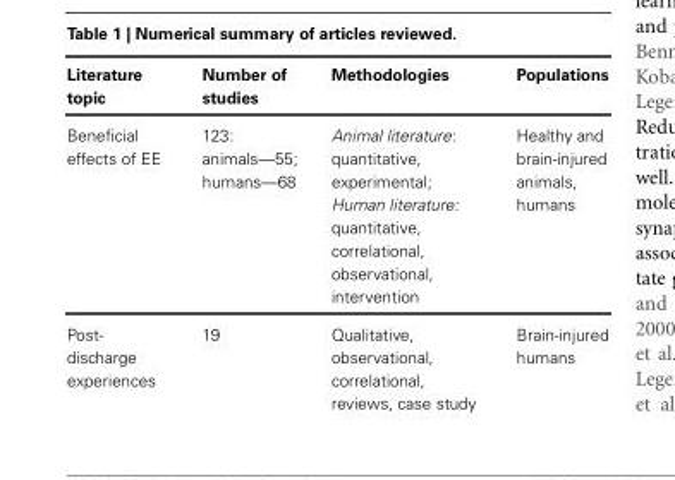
<table><thead><tr><td>Literature topic</td><td>Number of studies</td><td>Methodologies</td><td>Populations</td></tr></thead><tbody><tr><td>Beneficial effects of EE</td><td>123: animals—55; humans—68</td><td>Animal literature: quantitative, experimental; Human literature: quantitative, correlational, observational, intervention</td><td>Healthy and brain-injured animals, humans</td></tr><tr><td>Post- discharge experiences</td><td>19</td><td>Qualitative, observational, correlational, reviews, case study</td><td>Brain-injured humans</td></tr></tbody></table>